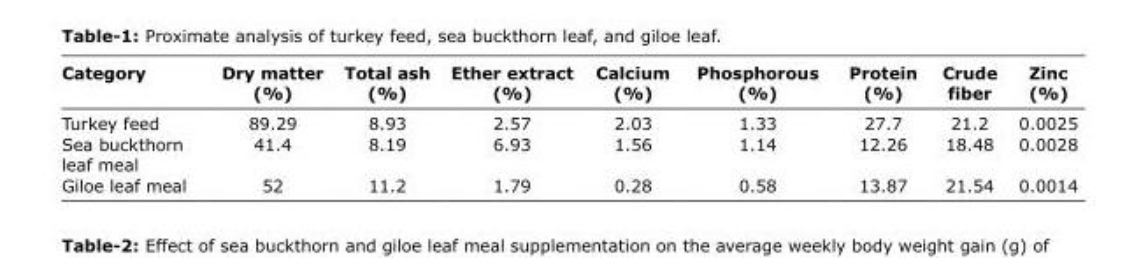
<table><thead><tr><td>Category</td><td>Dry matter (%)</td><td>Total ash (%)</td><td>Ether extract (%)</td><td>Calcium (%)</td><td>Phosphorous (%)</td><td>Protein (%)</td><td>Crude fiber</td><td>Zinc (%)</td></tr></thead><tbody><tr><td>Turkey feed</td><td>89.29</td><td>8.93</td><td>2.57</td><td>2.03</td><td>1.33</td><td>27.7</td><td>21.2</td><td>0.0025</td></tr><tr><td>Sea buckthorn leaf meal</td><td>41.4</td><td>8.19</td><td>6.93</td><td>1.56</td><td>1.14</td><td>12.26</td><td>18.48</td><td>0.0028</td></tr><tr><td>Giloe leaf meal</td><td>52</td><td>11.2</td><td>1.79</td><td>0.28</td><td>0.58</td><td>13.87</td><td>21.54</td><td>0.0014</td></tr></tbody></table>